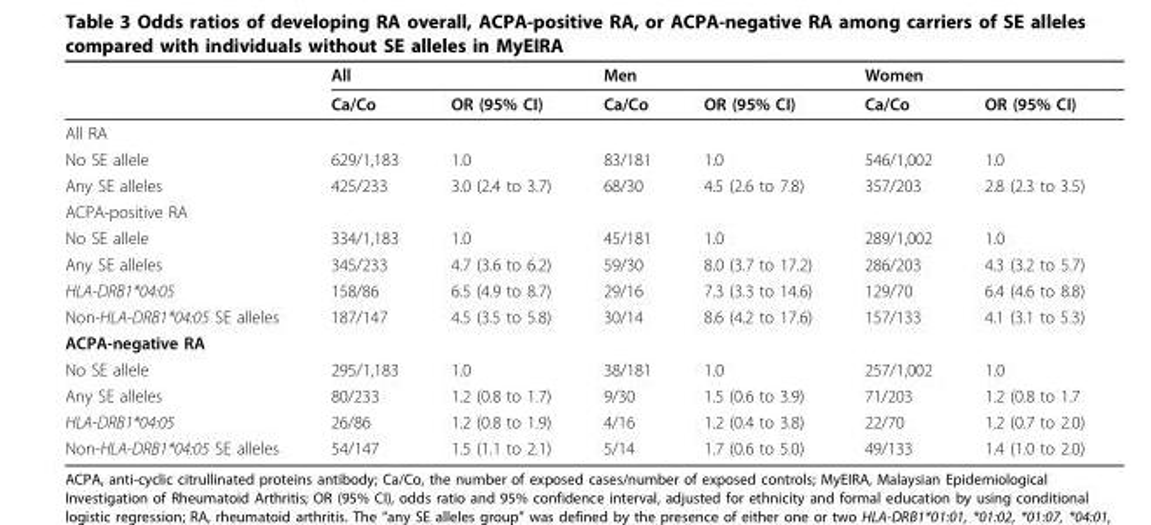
<table><thead><tr><td rowspan="2"></td><td colspan="2">All</td><td colspan="2">Men</td><td colspan="2">Women</td></tr><tr><td>Ca/Co</td><td>OR (95% CI)</td><td>Ca/Co</td><td>OR (95% CI)</td><td>Ca/Co</td><td>OR (95% CI)</td></tr></thead><tbody><tr><td colspan="7">All RA</td></tr><tr><td>No SE allele</td><td>629/1,183</td><td>1.0</td><td>83/181</td><td>1.0</td><td>546/1,002</td><td>1.0</td></tr><tr><td>Any SE alleles</td><td>425/233</td><td>3.0 (2.4 to 3.7)</td><td>68/30</td><td>4.5 (2.6 to 7.8)</td><td>357/203</td><td>2.8 (2.3 to 3.5)</td></tr><tr><td colspan="7">ACPA-positive RA</td></tr><tr><td>No SE allele</td><td>334/1,183</td><td>1.0</td><td>45/181</td><td>1.0</td><td>289/1,002</td><td>1.0</td></tr><tr><td>Any SE alleles</td><td>345/233</td><td>4.7 (3.6 to 6.2)</td><td>59/30</td><td>8.0 (3.7 to 17.2)</td><td>286/203</td><td>4.3 (3.2 to 5.7)</td></tr><tr><td>HLA-DRB1*04:05</td><td>158/86</td><td>6.5 (4.9 to 8.7)</td><td>29/16</td><td>7.3 (3.3 to 14.6)</td><td>129/70</td><td>6.4 (4.6 to 8.8)</td></tr><tr><td>Non-HLA-DRB1*04:05 SE alleles</td><td>187/147</td><td>4.5 (3.5 to 5.8)</td><td>30/14</td><td>8.6 (4.2 to 17.6)</td><td>157/133</td><td>4.1 (3.1 to 5.3)</td></tr><tr><td colspan="7">ACPA-negative RA</td></tr><tr><td>No SE allele</td><td>295/1,183</td><td>1.0</td><td>38/181</td><td>1.0</td><td>257/1,002</td><td>1.0</td></tr><tr><td>Any SE alleles</td><td>80/233</td><td>1.2 (0.8 to 1.7)</td><td>9/30</td><td>1.5 (0.6 to 3.9)</td><td>71/203</td><td>1.2 (0.8 to 1.7</td></tr><tr><td>HLA-DRB1*04:05</td><td>26/86</td><td>1.2 (0.8 to 1.9)</td><td>4/16</td><td>1.2 (0.4 to 3.8)</td><td>22/70</td><td>1.2 (0.7 to 2.0)</td></tr><tr><td>Non-HLA-DRB1*04:05 SE alleles</td><td>54/147</td><td>1.5 (1.1 to 2.1)</td><td>5/14</td><td>1.7 (0.6 to 5.0)</td><td>49/133</td><td>1.4 (1.0 to 2.0)</td></tr></tbody></table>